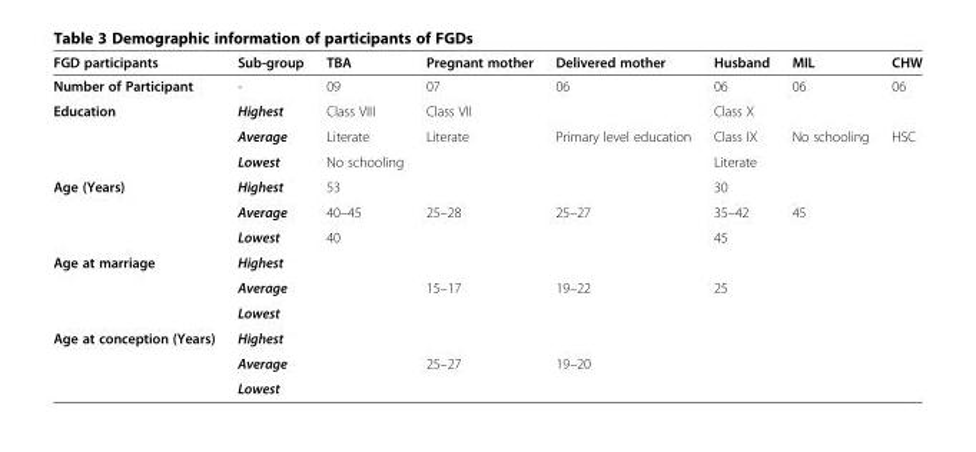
<table><thead><tr><td>FGD participants</td><td>Sub-group</td><td>TBA</td><td>Pregnant mother</td><td>Delivered mother</td><td>Husband</td><td>MIL</td><td>CHW</td></tr></thead><tbody><tr><td>Number of Participant</td><td>-</td><td>09</td><td>07</td><td>06</td><td>06</td><td>06</td><td>06</td></tr><tr><td rowspan="3">Education</td><td>Highest</td><td>Class VIII</td><td>Class VII</td><td></td><td>Class X</td><td></td><td></td></tr><tr><td>Average</td><td>Literate</td><td>Literate</td><td>Primary level education</td><td>Class IX</td><td>No schooling</td><td>HSC</td></tr><tr><td>Lowest</td><td>No schooling</td><td></td><td></td><td>Literate</td><td></td><td></td></tr><tr><td rowspan="3">Age (Years)</td><td>Highest</td><td>53</td><td></td><td></td><td>30</td><td></td><td></td></tr><tr><td>Average</td><td>40–45</td><td>25–28</td><td>25–27</td><td>35–42</td><td>45</td><td></td></tr><tr><td>Lowest</td><td>40</td><td></td><td></td><td>45</td><td></td><td></td></tr><tr><td rowspan="3">Age at marriage</td><td>Highest</td><td></td><td></td><td></td><td></td><td></td><td></td></tr><tr><td>Average</td><td></td><td>15–17</td><td>19–22</td><td>25</td><td></td><td></td></tr><tr><td>Lowest</td><td></td><td></td><td></td><td></td><td></td><td></td></tr><tr><td rowspan="3">Age at conception (Years)</td><td>Highest</td><td></td><td></td><td></td><td></td><td></td><td></td></tr><tr><td>Average</td><td></td><td>25–27</td><td>19–20</td><td></td><td></td><td></td></tr><tr><td>Lowest</td><td></td><td></td><td></td><td></td><td></td><td></td></tr></tbody></table>